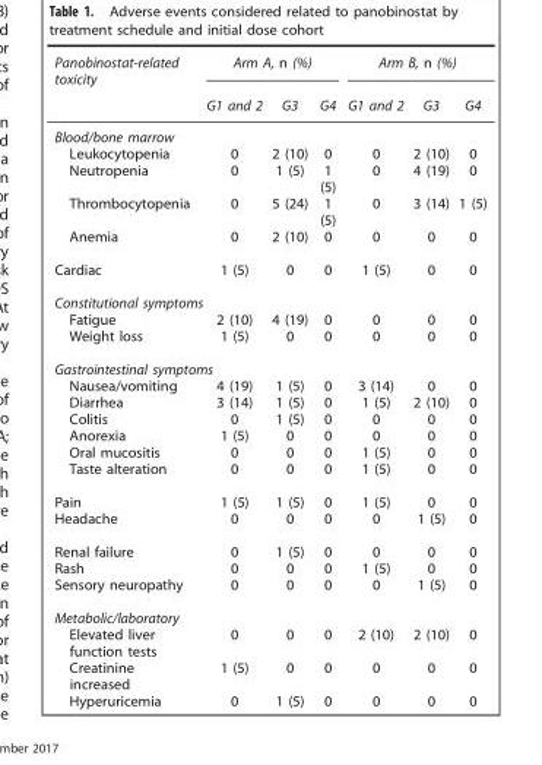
<table><thead><tr><td rowspan="2">Panobinostat-related toxicity</td><td colspan="3">Arm A, n (%)</td><td colspan="3">Arm B, n (%)</td></tr><tr><td>G1 and 2</td><td>G3</td><td>G4</td><td>G1 and 2</td><td>G3</td><td>G4</td></tr></thead><tbody><tr><td colspan="7">Blood/bone marrow</td></tr><tr><td>Leukocytopenia</td><td>0</td><td>2 (10)</td><td>0</td><td>0</td><td>2 (10)</td><td>0</td></tr><tr><td>Neutropenia</td><td>0</td><td>1 (5)</td><td>1 (5)</td><td>0</td><td>4 (19)</td><td>0</td></tr><tr><td>Thrombocytopenia</td><td>0</td><td>5 (24)</td><td>1 (5)</td><td>0</td><td>3 (14)</td><td>1 (5)</td></tr><tr><td>Anemia</td><td>0</td><td>2 (10)</td><td>0</td><td>0</td><td>0</td><td>0</td></tr><tr><td>Cardiac</td><td>1 (5)</td><td>0</td><td>0</td><td>1 (5)</td><td>0</td><td>0</td></tr><tr><td colspan="7">Constitutional symptoms</td></tr><tr><td>Fatigue</td><td>2 (10)</td><td>4 (19)</td><td>0</td><td>0</td><td>0</td><td>0</td></tr><tr><td>Weight loss</td><td>1 (5)</td><td>0</td><td>0</td><td>0</td><td>0</td><td>0</td></tr><tr><td colspan="7">Gastrointestinal symptoms</td></tr><tr><td>Nausea/vomiting</td><td>4 (19)</td><td>1 (5)</td><td>0</td><td>3 (14)</td><td>0</td><td>0</td></tr><tr><td>Diarrhea</td><td>3 (14)</td><td>1 (5)</td><td>0</td><td>1 (5)</td><td>2 (10)</td><td>0</td></tr><tr><td>Colitis</td><td>0</td><td>1 (5)</td><td>0</td><td>0</td><td>0</td><td>0</td></tr><tr><td>Anorexia</td><td>1 (5)</td><td>0</td><td>0</td><td>0</td><td>0</td><td>0</td></tr><tr><td>Oral mucositis</td><td>0</td><td>0</td><td>0</td><td>1 (5)</td><td>0</td><td>0</td></tr><tr><td>Taste alteration</td><td>0</td><td>0</td><td>0</td><td>1 (5)</td><td>0</td><td>0</td></tr><tr><td>Pain</td><td>1 (5)</td><td>1 (5)</td><td>0</td><td>1 (5)</td><td>0</td><td>0</td></tr><tr><td>Headache</td><td>0</td><td>0</td><td>0</td><td>0</td><td>1 (5)</td><td>0</td></tr><tr><td>Renal failure</td><td>0</td><td>1 (5)</td><td>0</td><td>0</td><td>0</td><td>0</td></tr><tr><td>Rash</td><td>0</td><td>0</td><td>0</td><td>1 (5)</td><td>0</td><td>0</td></tr><tr><td>Sensory neuropathy</td><td>0</td><td>0</td><td>0</td><td>0</td><td>1 (5)</td><td>0</td></tr><tr><td colspan="7">Metabolic/laboratory</td></tr><tr><td>Elevated liver function tests</td><td>0</td><td>0</td><td>0</td><td>2 (10)</td><td>2 (10)</td><td>0</td></tr><tr><td>Creatinine increased</td><td>1 (5)</td><td>0</td><td>0</td><td>0</td><td>0</td><td>0</td></tr><tr><td>Hyperuricemia</td><td>0</td><td>1 (5)</td><td>0</td><td>0</td><td>0</td><td>0</td></tr></tbody></table>